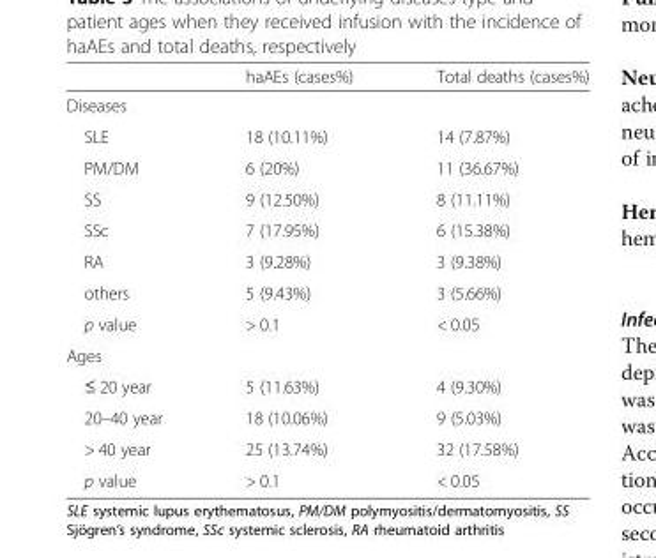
<table><thead><tr><td></td><td>haAEs (cases%)</td><td>Total deaths (cases%)</td></tr></thead><tbody><tr><td colspan="3">Diseases</td></tr><tr><td>SLE</td><td>18 (10.11%)</td><td>14 (7.87%)</td></tr><tr><td>PM/DM</td><td>6 (20%)</td><td>11 (36.67%)</td></tr><tr><td>SS</td><td>9 (12.50%)</td><td>8 (11.11%)</td></tr><tr><td>SSc</td><td>7 (17.95%)</td><td>6 (15.38%)</td></tr><tr><td>RA</td><td>3 (9.28%)</td><td>3 (9.38%)</td></tr><tr><td>others</td><td>5 (9.43%)</td><td>3 (5.66%)</td></tr><tr><td>p value</td><td>&gt; 0.1</td><td>&lt; 0.05</td></tr><tr><td colspan="3">Ages</td></tr><tr><td>≤ 20 year</td><td>5 (11.63%)</td><td>4 (9.30%)</td></tr><tr><td>20–40 year</td><td>18 (10.06%)</td><td>9 (5.03%)</td></tr><tr><td>&gt; 40 year</td><td>25 (13.74%)</td><td>32 (17.58%)</td></tr><tr><td>p value</td><td>&gt; 0.1</td><td>&lt; 0.05</td></tr></tbody></table>